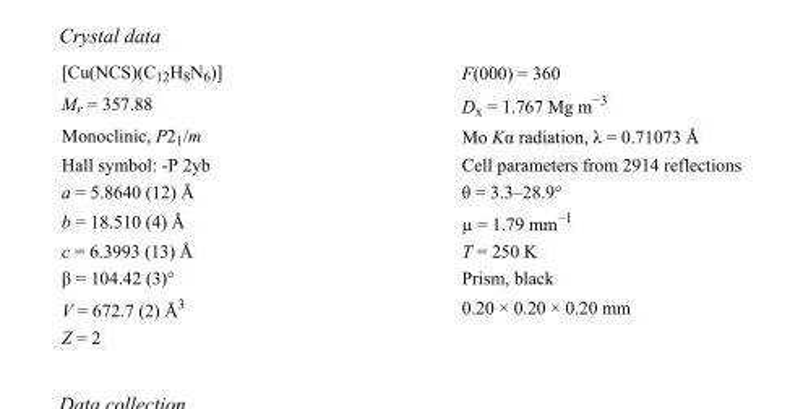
<table><tbody><tr><td>[Cu(NCS)(C<sub>12</sub>H<sub>8</sub>N<sub>6</sub>)]</td><td>F(000) = 360</td></tr><tr><td>M<sub>r</sub> = 357.88</td><td>D<sub>x</sub> = 1.767 Mg m<sup>−3</sup></td></tr><tr><td>Monoclinic, P2<sub>1</sub>/m</td><td>Mo Kα radiation, λ = 0.71073 Å</td></tr><tr><td>Hall symbol: -P 2yb</td><td>Cell parameters from 2914 reflections</td></tr><tr><td>a = 5.8640 (12) Å</td><td>θ = 3.3–28.9°</td></tr><tr><td>b = 18.510 (4) Å</td><td>µ = 1.79 mm<sup>−1</sup></td></tr><tr><td>c = 6.3993 (13) Å</td><td>T = 250 K</td></tr><tr><td>β = 104.42 (3)°</td><td>Prism, black</td></tr><tr><td>V = 672.7 (2) Å<sup>3</sup></td><td>0.20 × 0.20 × 0.20 mm</td></tr><tr><td>Z = 2</td><td></td></tr></tbody></table>